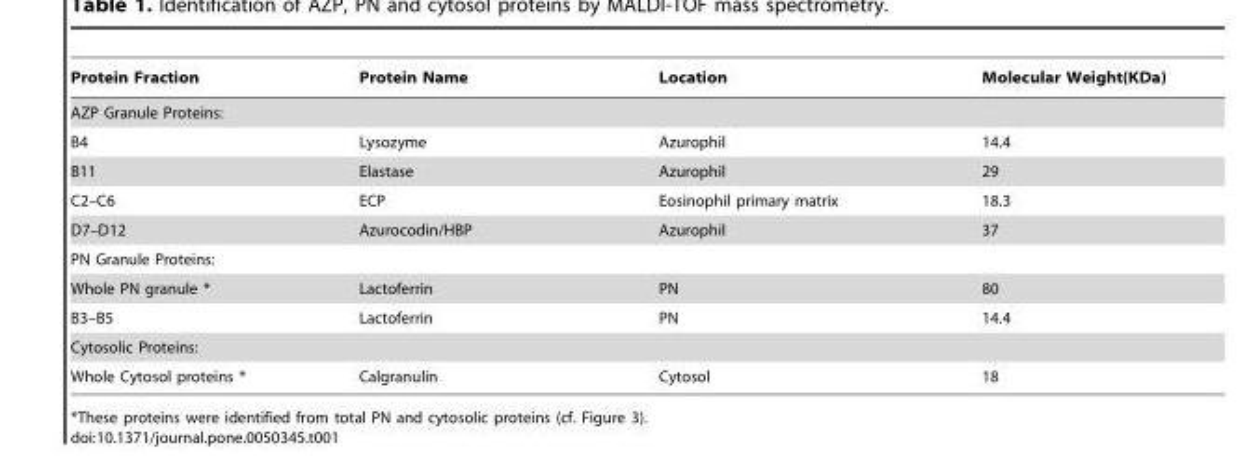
<table><thead><tr><td>Protein Fraction</td><td>Protein Name</td><td>Location</td><td>Molecular Weight(KDa)</td></tr></thead><tbody><tr><td colspan="4">AZP Granule Proteins:</td></tr><tr><td>B4</td><td>Lysozyme</td><td>Azurophil</td><td>14.4</td></tr><tr><td>B11</td><td>Elastase</td><td>Azurophil</td><td>29</td></tr><tr><td>C2–C6</td><td>ECP</td><td>Eosinophil primary matrix</td><td>18.3</td></tr><tr><td>D7–D12</td><td>Azurocodin/HBP</td><td>Azurophil</td><td>37</td></tr><tr><td colspan="4">PN Granule Proteins:</td></tr><tr><td>Whole PN granule *</td><td>Lactoferrin</td><td>PN</td><td>80</td></tr><tr><td>B3–B5</td><td>Lactoferrin</td><td>PN</td><td>14.4</td></tr><tr><td colspan="4">Cytosolic Proteins:</td></tr><tr><td>Whole Cytosol proteins *</td><td>Calgranulin</td><td>Cytosol</td><td>18</td></tr></tbody></table>